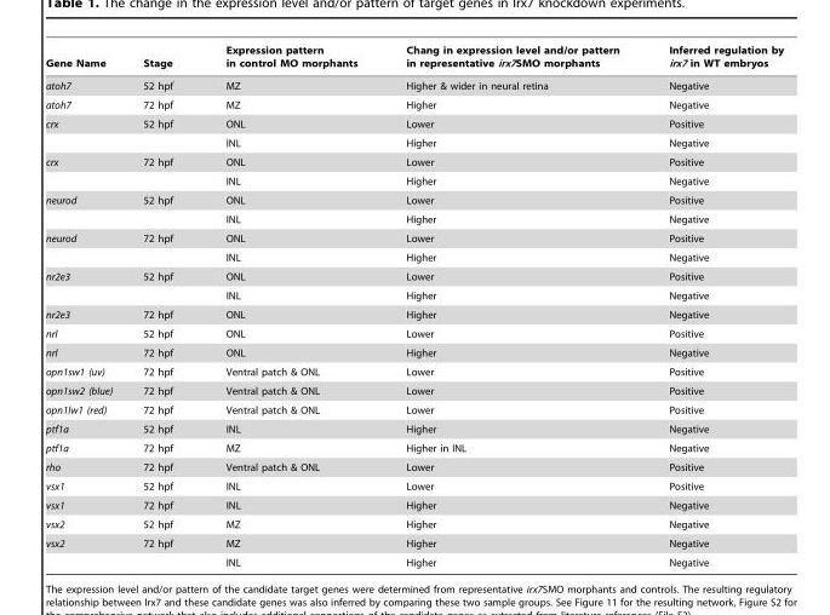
<table><thead><tr><td>Gene Name</td><td>Stage</td><td>Expression pattern in control MO morphants</td><td>Chang in expression level and/or pattern in representative irx7SMO morphants</td><td>Inferred regulation by irx7 in WT embryos</td></tr></thead><tbody><tr><td>atoh7</td><td>52 hpf</td><td>MZ</td><td>Higher &amp; wider in neural retina</td><td>Negative</td></tr><tr><td>atoh7</td><td>72 hpf</td><td>MZ</td><td>Higher</td><td>Negative</td></tr><tr><td rowspan="2">crx</td><td>52 hpf</td><td>ONL</td><td>Lower</td><td>Positive</td></tr><tr><td></td><td>INL</td><td>Higher</td><td>Negative</td></tr><tr><td rowspan="2">crx</td><td>72 hpf</td><td>ONL</td><td>Lower</td><td>Positive</td></tr><tr><td></td><td>INL</td><td>Higher</td><td>Negative</td></tr><tr><td rowspan="2">neurod</td><td>52 hpf</td><td>ONL</td><td>Lower</td><td>Positive</td></tr><tr><td></td><td>INL</td><td>Higher</td><td>Negative</td></tr><tr><td rowspan="2">neurod</td><td>72 hpf</td><td>ONL</td><td>Lower</td><td>Positive</td></tr><tr><td></td><td>INL</td><td>Higher</td><td>Negative</td></tr><tr><td rowspan="2">nr2e3</td><td>52 hpf</td><td>ONL</td><td>Lower</td><td>Positive</td></tr><tr><td></td><td>INL</td><td>Higher</td><td>Negative</td></tr><tr><td>nr2e3</td><td>72 hpf</td><td>ONL</td><td>Higher</td><td>Negative</td></tr><tr><td>nrl</td><td>52 hpf</td><td>ONL</td><td>Lower</td><td>Positive</td></tr><tr><td>nrl</td><td>72 hpf</td><td>ONL</td><td>Higher</td><td>Negative</td></tr><tr><td>opn1sw1 (uv)</td><td>72 hpf</td><td>Ventral patch &amp; ONL</td><td>Lower</td><td>Positive</td></tr><tr><td>opn1sw2 (blue)</td><td>72 hpf</td><td>Ventral patch &amp; ONL</td><td>Lower</td><td>Positive</td></tr><tr><td>opn1lw1 (red)</td><td>72 hpf</td><td>Ventral patch &amp; ONL</td><td>Lower</td><td>Positive</td></tr><tr><td>ptf1a</td><td>52 hpf</td><td>INL</td><td>Higher</td><td>Negative</td></tr><tr><td>ptf1a</td><td>72 hpf</td><td>MZ</td><td>Higher in INL</td><td>Negative</td></tr><tr><td>rho</td><td>72 hpf</td><td>Ventral patch &amp; ONL</td><td>Lower</td><td>Positive</td></tr><tr><td>vsx1</td><td>52 hpf</td><td>INL</td><td>Lower</td><td>Positive</td></tr><tr><td>vsx1</td><td>72 hpf</td><td>INL</td><td>Higher</td><td>Negative</td></tr><tr><td>vsx2</td><td>52 hpf</td><td>MZ</td><td>Higher</td><td>Negative</td></tr><tr><td rowspan="2">vsx2</td><td>72 hpf</td><td>MZ</td><td>Higher</td><td>Negative</td></tr><tr><td></td><td>INL</td><td>Higher</td><td>Negative</td></tr></tbody></table>